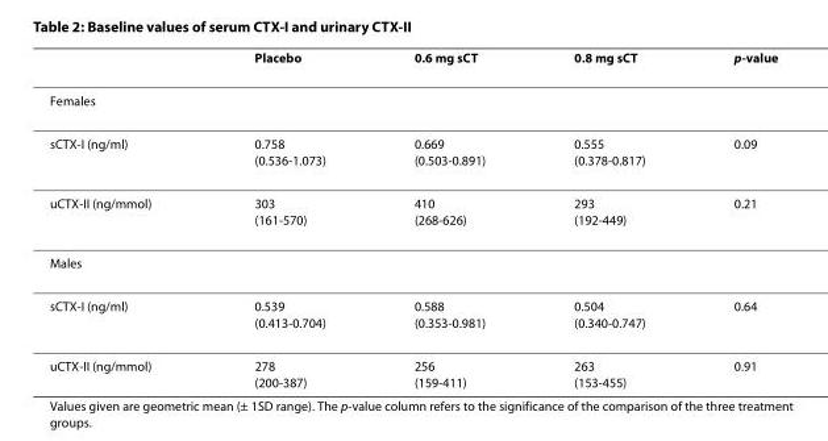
<table><thead><tr><td></td><td>Placebo</td><td>0.6 mg sCT</td><td>0.8 mg sCT</td><td>p-value</td></tr></thead><tbody><tr><td colspan="5">Females</td></tr><tr><td>sCTX-I (ng/ml)</td><td>0.758 (0.536-1.073)</td><td>0.669 (0.503-0.891)</td><td>0.555 (0.378-0.817)</td><td>0.09</td></tr><tr><td>uCTX-II (ng/mmol)</td><td>303 (161-570)</td><td>410 (268-626)</td><td>293 (192-449)</td><td>0.21</td></tr><tr><td colspan="5">Males</td></tr><tr><td>sCTX-I (ng/ml)</td><td>0.539 (0.413-0.704)</td><td>0.588 (0.353-0.981)</td><td>0.504 (0.340-0.747)</td><td>0.64</td></tr><tr><td>uCTX-II (ng/mmol)</td><td>278 (200-387)</td><td>256 (159-411)</td><td>263 (153-455)</td><td>0.91</td></tr></tbody></table>